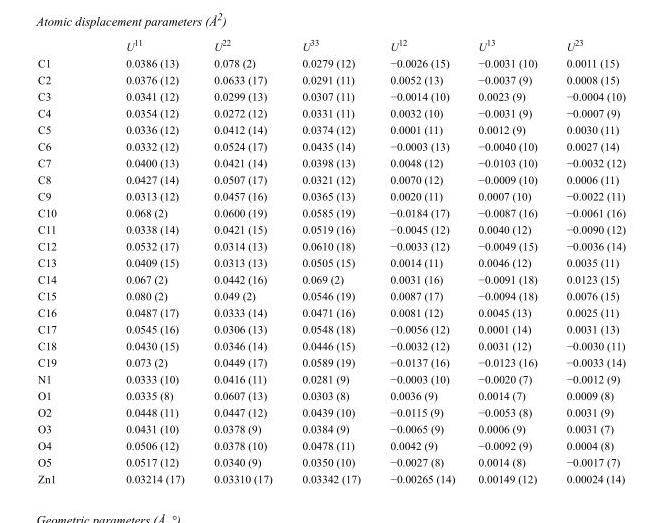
<table><thead><tr><td></td><td>U<sup>11</sup></td><td>U<sup>22</sup></td><td>U<sup>33</sup></td><td>U<sup>12</sup></td><td>U<sup>13</sup></td><td>U<sup>23</sup></td></tr></thead><tbody><tr><td>C1</td><td>0.0386 (13)</td><td>0.078 (2)</td><td>0.0279 (12)</td><td>−0.0026 (15)</td><td>−0.0031 (10)</td><td>0.0011 (15)</td></tr><tr><td>C2</td><td>0.0376 (12)</td><td>0.0633 (17)</td><td>0.0291 (11)</td><td>0.0052 (13)</td><td>−0.0037 (9)</td><td>0.0008 (15)</td></tr><tr><td>C3</td><td>0.0341 (12)</td><td>0.0299 (13)</td><td>0.0307 (11)</td><td>−0.0014 (10)</td><td>0.0023 (9)</td><td>−0.0004 (10)</td></tr><tr><td>C4</td><td>0.0354 (12)</td><td>0.0272 (12)</td><td>0.0331 (11)</td><td>0.0032 (10)</td><td>−0.0031 (9)</td><td>−0.0007 (9)</td></tr><tr><td>C5</td><td>0.0336 (12)</td><td>0.0412 (14)</td><td>0.0374 (12)</td><td>0.0001 (11)</td><td>0.0012 (9)</td><td>0.0030 (11)</td></tr><tr><td>C6</td><td>0.0332 (12)</td><td>0.0524 (17)</td><td>0.0435 (14)</td><td>−0.0003 (13)</td><td>−0.0040 (10)</td><td>0.0027 (14)</td></tr><tr><td>C7</td><td>0.0400 (13)</td><td>0.0421 (14)</td><td>0.0398 (13)</td><td>0.0048 (12)</td><td>−0.0103 (10)</td><td>−0.0032 (12)</td></tr><tr><td>C8</td><td>0.0427 (14)</td><td>0.0507 (17)</td><td>0.0321 (12)</td><td>0.0070 (12)</td><td>−0.0009 (10)</td><td>0.0006 (11)</td></tr><tr><td>C9</td><td>0.0313 (12)</td><td>0.0457 (16)</td><td>0.0365 (13)</td><td>0.0020 (11)</td><td>0.0007 (10)</td><td>−0.0022 (11)</td></tr><tr><td>C10</td><td>0.068 (2)</td><td>0.0600 (19)</td><td>0.0585 (19)</td><td>−0.0184 (17)</td><td>−0.0087 (16)</td><td>−0.0061 (16)</td></tr><tr><td>C11</td><td>0.0338 (14)</td><td>0.0421 (15)</td><td>0.0519 (16)</td><td>−0.0045 (12)</td><td>0.0040 (12)</td><td>−0.0090 (12)</td></tr><tr><td>C12</td><td>0.0532 (17)</td><td>0.0314 (13)</td><td>0.0610 (18)</td><td>−0.0033 (12)</td><td>−0.0049 (15)</td><td>−0.0036 (14)</td></tr><tr><td>C13</td><td>0.0409 (15)</td><td>0.0313 (13)</td><td>0.0505 (15)</td><td>0.0014 (11)</td><td>0.0046 (12)</td><td>0.0035 (11)</td></tr><tr><td>C14</td><td>0.067 (2)</td><td>0.0442 (16)</td><td>0.069 (2)</td><td>0.0031 (16)</td><td>−0.0091 (18)</td><td>0.0123 (15)</td></tr><tr><td>C15</td><td>0.080 (2)</td><td>0.049 (2)</td><td>0.0546 (19)</td><td>0.0087 (17)</td><td>−0.0094 (18)</td><td>0.0076 (15)</td></tr><tr><td>C16</td><td>0.0487 (17)</td><td>0.0333 (14)</td><td>0.0471 (16)</td><td>0.0081 (12)</td><td>0.0045 (13)</td><td>0.0025 (11)</td></tr><tr><td>C17</td><td>0.0545 (16)</td><td>0.0306 (13)</td><td>0.0548 (18)</td><td>−0.0056 (12)</td><td>0.0001 (14)</td><td>0.0031 (13)</td></tr><tr><td>C18</td><td>0.0430 (15)</td><td>0.0346 (14)</td><td>0.0446 (15)</td><td>−0.0032 (12)</td><td>0.0031 (12)</td><td>−0.0030 (11)</td></tr><tr><td>C19</td><td>0.073 (2)</td><td>0.0449 (17)</td><td>0.0589 (19)</td><td>−0.0137 (16)</td><td>−0.0123 (16)</td><td>−0.0033 (14)</td></tr><tr><td>N1</td><td>0.0333 (10)</td><td>0.0416 (11)</td><td>0.0281 (9)</td><td>−0.0003 (10)</td><td>−0.0020 (7)</td><td>−0.0012 (9)</td></tr><tr><td>O1</td><td>0.0335 (8)</td><td>0.0607 (13)</td><td>0.0303 (8)</td><td>0.0036 (9)</td><td>0.0014 (7)</td><td>0.0009 (8)</td></tr><tr><td>O2</td><td>0.0448 (11)</td><td>0.0447 (12)</td><td>0.0439 (10)</td><td>−0.0115 (9)</td><td>−0.0053 (8)</td><td>0.0031 (9)</td></tr><tr><td>O3</td><td>0.0431 (10)</td><td>0.0378 (9)</td><td>0.0384 (9)</td><td>−0.0065 (9)</td><td>0.0006 (9)</td><td>0.0031 (7)</td></tr><tr><td>O4</td><td>0.0506 (12)</td><td>0.0378 (10)</td><td>0.0478 (11)</td><td>0.0042 (9)</td><td>−0.0092 (9)</td><td>0.0004 (8)</td></tr><tr><td>O5</td><td>0.0517 (12)</td><td>0.0340 (9)</td><td>0.0350 (10)</td><td>−0.0027 (8)</td><td>0.0014 (8)</td><td>−0.0017 (7)</td></tr><tr><td>Zn1</td><td>0.03214 (17)</td><td>0.03310 (17)</td><td>0.03342 (17)</td><td>−0.00265 (14)</td><td>0.00149 (12)</td><td>0.00024 (14)</td></tr></tbody></table>